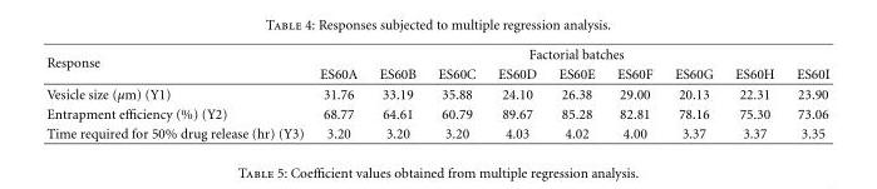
<table><thead><tr><td rowspan="2">Response</td><td colspan="9">Factorial batches</td></tr><tr><td>ES60A</td><td>ES60B</td><td>ES60C</td><td>ES60D</td><td>ES60E</td><td>ES60F</td><td>ES60G</td><td>ES60H</td><td>ES60I</td></tr></thead><tbody><tr><td>Vesicle size (µm) (Y1)</td><td>31.76</td><td>33.19</td><td>35.88</td><td>24.10</td><td>26.38</td><td>29.00</td><td>20.13</td><td>22.31</td><td>23.90</td></tr><tr><td>Entrapment efficiency (%) (Y2)</td><td>68.77</td><td>64.61</td><td>60.79</td><td>89.67</td><td>85.28</td><td>82.81</td><td>78.16</td><td>75.30</td><td>73.06</td></tr><tr><td>Time required for 50% drug release (hr) (Y3)</td><td>3.20</td><td>3.20</td><td>3.20</td><td>4.03</td><td>4.02</td><td>4.00</td><td>3.37</td><td>3.37</td><td>3.35</td></tr></tbody></table>